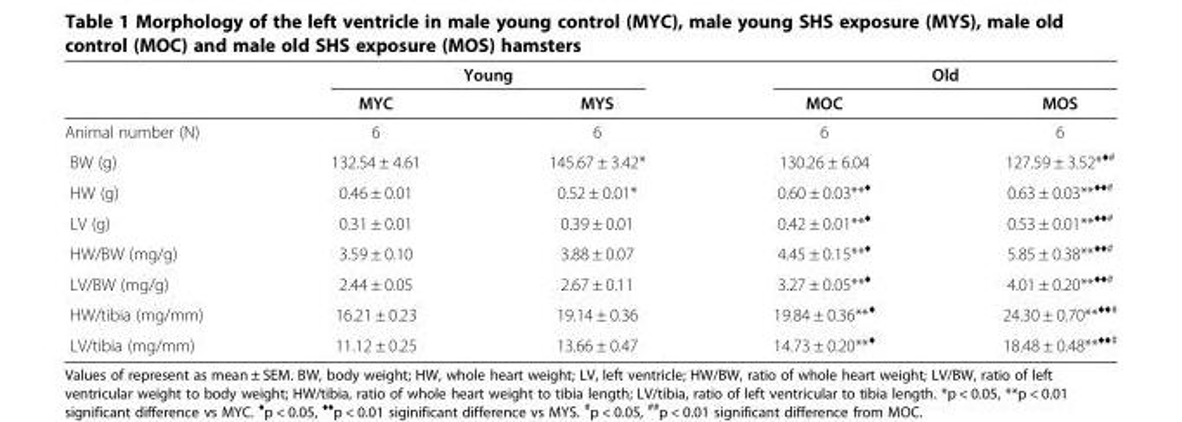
<table><thead><tr><td rowspan="2"></td><td colspan="2">Young</td><td colspan="2">Old</td></tr><tr><td>MYC</td><td>MYS</td><td>MOC</td><td>MOS</td></tr></thead><tbody><tr><td>Animal number (N)</td><td>6</td><td>6</td><td>6</td><td>6</td></tr><tr><td>BW (g)</td><td>132.54 ± 4.61</td><td>145.67 ± 3.42*</td><td>130.26 ± 6.04</td><td>127.59 ± 3.52*<sup>♦#</sup></td></tr><tr><td>HW (g)</td><td>0.46 ± 0.01</td><td>0.52 ± 0.01*</td><td>0.60 ± 0.03**<sup>♦</sup></td><td>0.63 ± 0.03**<sup>♦♦#</sup></td></tr><tr><td>LV (g)</td><td>0.31 ± 0.01</td><td>0.39 ± 0.01</td><td>0.42 ± 0.01**<sup>♦</sup></td><td>0.53 ± 0.01**<sup>♦♦#</sup></td></tr><tr><td>HW/BW (mg/g)</td><td>3.59 ± 0.10</td><td>3.88 ± 0.07</td><td>4.45 ± 0.15**<sup>♦</sup></td><td>5.85 ± 0.38**<sup>♦♦#</sup></td></tr><tr><td>LV/BW (mg/g)</td><td>2.44 ± 0.05</td><td>2.67 ± 0.11</td><td>3.27 ± 0.05**<sup>♦</sup></td><td>4.01 ± 0.20**<sup>♦♦#</sup></td></tr><tr><td>HW/tibia (mg/mm)</td><td>16.21 ± 0.23</td><td>19.14 ± 0.36</td><td>19.84 ± 0.36**<sup>♦</sup></td><td>24.30 ± 0.70**<sup>♦♦#</sup></td></tr><tr><td>LV/tibia (mg/mm)</td><td>11.12 ± 0.25</td><td>13.66 ± 0.47</td><td>14.73 ± 0.20**<sup>♦</sup></td><td>18.48 ± 0.48**<sup>♦♦#</sup></td></tr></tbody></table>